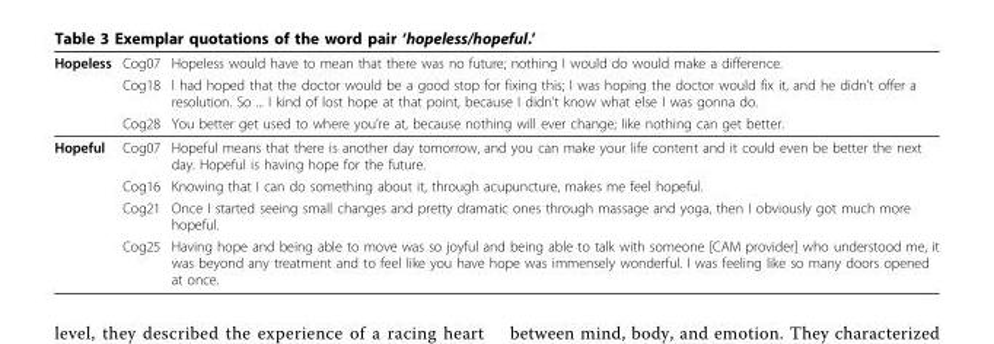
<table><thead><tr><td rowspan="3">Hopeless</td><td rowspan="3">Cog07 Cog18 Cog28</td><td rowspan="3">Hopeless would have to mean that there was no future; nothing I would do would make a difference. I had hoped that the doctor would be a good stop for fixing this; I was hoping the doctor would fix it, and he didn’t offer a resolution. So ... I kind of lost hope at that point, because I didn’t know what else I was gonna do. You better get used to where you’re at, because nothing will ever change; like nothing can get better.</td></tr><tr></tr><tr></tr></thead><tbody><tr><td rowspan="4">Hopeful</td><td>Cog07</td><td>Hopeful means that there is another day tomorrow, and you can make your life content and it could even be better the next day. Hopeful is having hope for the future.</td></tr><tr><td>Cog16</td><td>Knowing that I can do something about it, through acupuncture, makes me feel hopeful.</td></tr><tr><td>Cog21</td><td>Once I started seeing small changes and pretty dramatic ones through massage and yoga, then I obviously got much more hopeful.</td></tr><tr><td>Cog25</td><td>Having hope and being able to move was so joyful and being able to talk with someone [CAM provider] who understood me, it was beyond any treatment and to feel like you have hope was immensely wonderful. I was feeling like so many doors opened at once.</td></tr></tbody></table>